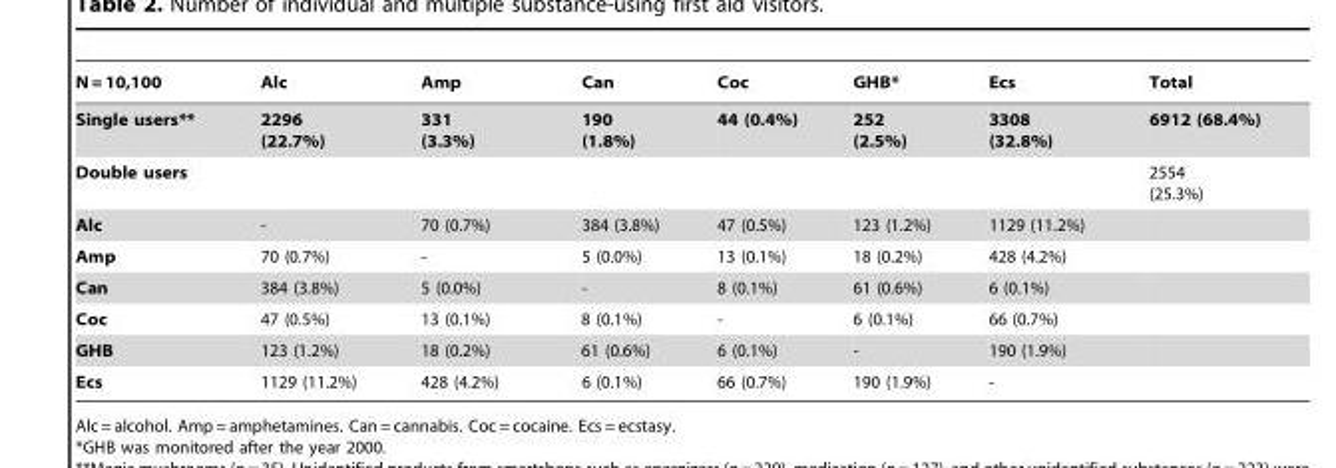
<table><thead><tr><td>N = 10,100</td><td>Alc</td><td>Amp</td><td>Can</td><td>Coc</td><td>GHB*</td><td>Ecs</td><td>Total</td></tr></thead><tbody><tr><td>Single users**</td><td>2296 (22.7%)</td><td>331 (3.3%)</td><td>190 (1.8%)</td><td>44 (0.4%)</td><td>252 (2.5%)</td><td>3308 (32.8%)</td><td>6912 (68.4%)</td></tr><tr><td>Double users</td><td></td><td></td><td></td><td></td><td></td><td></td><td>2554 (25.3%)</td></tr><tr><td>Alc</td><td>-</td><td>70 (0.7%)</td><td>384 (3.8%)</td><td>47 (0.5%)</td><td>123 (1.2%)</td><td>1129 (11.2%)</td><td></td></tr><tr><td>Amp</td><td>70 (0.7%)</td><td>-</td><td>5 (0.0%)</td><td>13 (0.1%)</td><td>18 (0.2%)</td><td>428 (4.2%)</td><td></td></tr><tr><td>Can</td><td>384 (3.8%)</td><td>5 (0.0%)</td><td>-</td><td>8 (0.1%)</td><td>61 (0.6%)</td><td>6 (0.1%)</td><td></td></tr><tr><td>Coc</td><td>47 (0.5%)</td><td>13 (0.1%)</td><td>8 (0.1%)</td><td>-</td><td>6 (0.1%)</td><td>66 (0.7%)</td><td></td></tr><tr><td>GHB</td><td>123 (1.2%)</td><td>18 (0.2%)</td><td>61 (0.6%)</td><td>6 (0.1%)</td><td>-</td><td>190 (1.9%)</td><td></td></tr><tr><td>Ecs</td><td>1129 (11.2%)</td><td>428 (4.2%)</td><td>6 (0.1%)</td><td>66 (0.7%)</td><td>190 (1.9%)</td><td>-</td><td></td></tr></tbody></table>